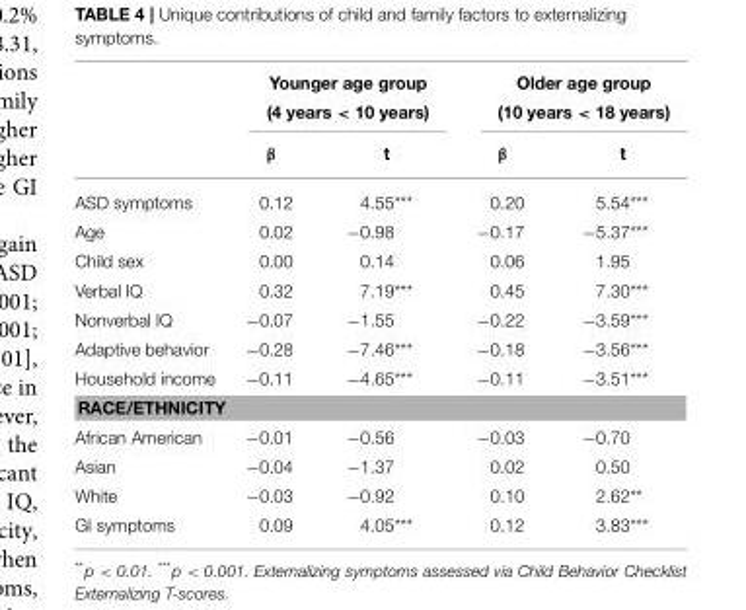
<table><thead><tr><td rowspan="3"></td><td rowspan="2" colspan="2">Younger age group (4 years &lt; 10 years)</td><td rowspan="2" colspan="2">Older age group (10 years &lt; 18 years)</td></tr><tr></tr><tr><td>β</td><td>t</td><td>β</td><td>t</td></tr></thead><tbody><tr><td>ASD symptoms</td><td>0.12</td><td>4.55***</td><td>0.20</td><td>5.54***</td></tr><tr><td>Age</td><td>0.02</td><td>−0.98</td><td>−0.17</td><td>−5.37***</td></tr><tr><td>Child sex</td><td>0.00</td><td>0.14</td><td>0.06</td><td>1.95</td></tr><tr><td>Verbal IQ</td><td>0.32</td><td>7.19***</td><td>0.45</td><td>7.30***</td></tr><tr><td>Nonverbal IQ</td><td>−0.07</td><td>−1.55</td><td>−0.22</td><td>−3.59***</td></tr><tr><td>Adaptive behavior</td><td>−0.28</td><td>−7.46***</td><td>−0.18</td><td>−3.56***</td></tr><tr><td>Household income</td><td>−0.11</td><td>−4.65***</td><td>−0.11</td><td>−3.51***</td></tr><tr><td colspan="5">RACE/ETHNICITY</td></tr><tr><td>African American</td><td>−0.01</td><td>−0.56</td><td>−0.03</td><td>−0.70</td></tr><tr><td>Asian</td><td>−0.04</td><td>−1.37</td><td>0.02</td><td>0.50</td></tr><tr><td>White</td><td>−0.03</td><td>−0.92</td><td>0.10</td><td>2.62**</td></tr><tr><td>GI symptoms</td><td>0.09</td><td>4.05***</td><td>0.12</td><td>3.83***</td></tr></tbody></table>